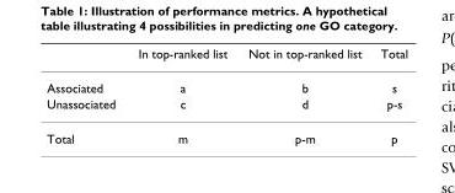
<table><thead><tr><td></td><td>In top-ranked list</td><td>Not in top-ranked list</td><td>Total</td></tr></thead><tbody><tr><td>Associated</td><td>a</td><td>b</td><td>s</td></tr><tr><td>Unassociated</td><td>c</td><td>d</td><td>p-s</td></tr><tr><td>Total</td><td>m</td><td>p-m</td><td>p</td></tr></tbody></table>